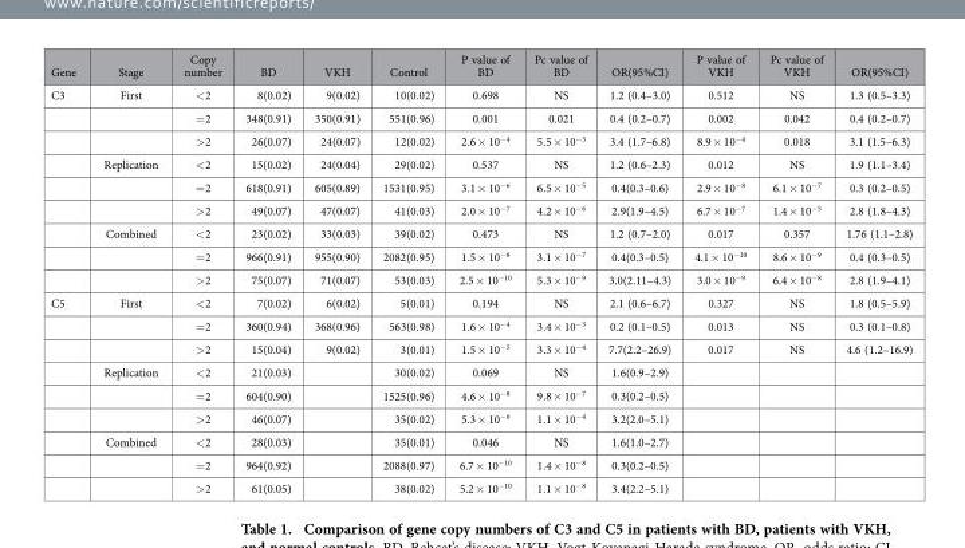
<table><thead><tr><td>Gene</td><td>Stage</td><td>Copy number</td><td>BD</td><td>VKH</td><td>Control</td><td>P value of BD</td><td>Pc value of BD</td><td>OR(95%CI)</td><td>P value of VKH</td><td>Pc value of VKH</td><td>OR(95%CI)</td></tr></thead><tbody><tr><td rowspan="9">C3</td><td>First</td><td>&lt; 2</td><td>8(0.02)</td><td>9(0.02)</td><td>10(0.02)</td><td>0.698</td><td>NS</td><td>1.2 (0.4–3.0)</td><td>0.512</td><td>NS</td><td>1.3 (0.5–3.3)</td></tr><tr><td></td><td>= 2</td><td>348(0.91)</td><td>350(0.91)</td><td>551(0.96)</td><td>0.001</td><td>0.021</td><td>0.4 (0.2–0.7)</td><td>0.002</td><td>0.042</td><td>0.4 (0.2–0.7)</td></tr><tr><td></td><td>&gt; 2</td><td>26(0.07)</td><td>24(0.07)</td><td>12(0.02)</td><td>2.6 × 10<sup>−4</sup></td><td>5.5 × 10<sup>−3</sup></td><td>3.4 (1.7–6.8)</td><td>8.9 × 10<sup>−4</sup></td><td>0.018</td><td>3.1 (1.5–6.3)</td></tr><tr><td>Replication</td><td>&lt; 2</td><td>15(0.02)</td><td>24(0.04)</td><td>29(0.02)</td><td>0.537</td><td>NS</td><td>1.2 (0.6–2.3)</td><td>0.012</td><td>NS</td><td>1.9 (1.1–3.4)</td></tr><tr><td></td><td>= 2</td><td>618(0.91)</td><td>605(0.89)</td><td>1531(0.95)</td><td>3.1 × 10<sup>−6</sup></td><td>6.5 × 10<sup>−5</sup></td><td>0.4(0.3–0.6)</td><td>2.9 × 10<sup>−8</sup></td><td>6.1 × 10<sup>−7</sup></td><td>0.3 (0.2–0.5)</td></tr><tr><td></td><td>&gt; 2</td><td>49(0.07)</td><td>47(0.07)</td><td>41(0.03)</td><td>2.0 × 10<sup>−7</sup></td><td>4.2 × 10<sup>−6</sup></td><td>2.9(1.9–4.5)</td><td>6.7 × 10<sup>−7</sup></td><td>1.4 × 10<sup>−5</sup></td><td>2.8 (1.8–4.3)</td></tr><tr><td>Combined</td><td>&lt; 2</td><td>23(0.02)</td><td>33(0.03)</td><td>39(0.02)</td><td>0.473</td><td>NS</td><td>1.2 (0.7–2.0)</td><td>0.017</td><td>0.357</td><td>1.76 (1.1–2.8)</td></tr><tr><td></td><td>= 2</td><td>966(0.91)</td><td>955(0.90)</td><td>2082(0.95)</td><td>1.5 × 10<sup>−8</sup></td><td>3.1 × 10<sup>−7</sup></td><td>0.4(0.3–0.5)</td><td>4.1 × 10<sup>−10</sup></td><td>8.6 × 10<sup>−9</sup></td><td>0.4 (0.3–0.5)</td></tr><tr><td></td><td>&gt; 2</td><td>75(0.07)</td><td>71(0.07)</td><td>53(0.03)</td><td>2.5 × 10<sup>−10</sup></td><td>5.3 × 10<sup>−9</sup></td><td>3.0(2.11–4.3)</td><td>3.0 × 10<sup>−9</sup></td><td>6.4 × 10<sup>−8</sup></td><td>2.8 (1.9–4.1)</td></tr><tr><td rowspan="9">C5</td><td>First</td><td>&lt; 2</td><td>7(0.02)</td><td>6(0.02)</td><td>5(0.01)</td><td>0.194</td><td>NS</td><td>2.1 (0.6–6.7)</td><td>0.327</td><td>NS</td><td>1.8 (0.5–5.9)</td></tr><tr><td></td><td>= 2</td><td>360(0.94)</td><td>368(0.96)</td><td>563(0.98)</td><td>1.6 × 10<sup>−4</sup></td><td>3.4 × 10<sup>−3</sup></td><td>0.2 (0.1–0.5)</td><td>0.013</td><td>NS</td><td>0.3 (0.1–0.8)</td></tr><tr><td></td><td>&gt; 2</td><td>15(0.04)</td><td>9(0.02)</td><td>3(0.01)</td><td>1.5 × 10<sup>−5</sup></td><td>3.3 × 10<sup>−4</sup></td><td>7.7(2.2–26.9)</td><td>0.017</td><td>NS</td><td>4.6 (1.2–16.9)</td></tr><tr><td>Replication</td><td>&lt; 2</td><td>21(0.03)</td><td></td><td>30(0.02)</td><td>0.069</td><td>NS</td><td>1.6(0.9–2.9)</td><td></td><td></td><td></td></tr><tr><td></td><td>= 2</td><td>604(0.90)</td><td></td><td>1525(0.96)</td><td>4.6 × 10<sup>−8</sup></td><td>9.8 × 10<sup>−7</sup></td><td>0.3(0.2–0.5)</td><td></td><td></td><td></td></tr><tr><td></td><td>&gt; 2</td><td>46(0.07)</td><td></td><td>35(0.02)</td><td>5.3 × 10<sup>−6</sup></td><td>1.1 × 10<sup>−4</sup></td><td>3.2(2.0–5.1)</td><td></td><td></td><td></td></tr><tr><td>Combined</td><td>&lt; 2</td><td>28(0.03)</td><td></td><td>35(0.01)</td><td>0.046</td><td>NS</td><td>1.6(1.0–2.7)</td><td></td><td></td><td></td></tr><tr><td></td><td>= 2</td><td>964(0.92)</td><td></td><td>2088(0.97)</td><td>6.7 × 10<sup>−10</sup></td><td>1.4 × 10<sup>−8</sup></td><td>0.3(0.2–0.5)</td><td></td><td></td><td></td></tr><tr><td></td><td>&gt; 2</td><td>61(0.05)</td><td></td><td>38(0.02)</td><td>5.2 × 10<sup>−10</sup></td><td>1.1 × 10<sup>−8</sup></td><td>3.4(2.2–5.1)</td><td></td><td></td><td></td></tr></tbody></table>